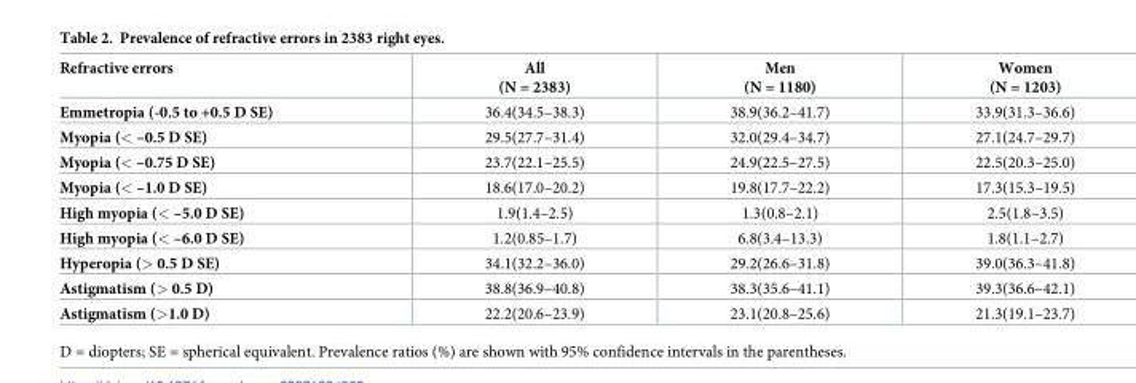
<table><thead><tr><td>Refractive errors</td><td>All (N = 2383)</td><td>Men (N = 1180)</td><td>Women (N = 1203)</td></tr></thead><tbody><tr><td>Emmetropia (-0.5 to +0.5 D SE)</td><td>36.4(34.5–38.3)</td><td>38.9(36.2–41.7)</td><td>33.9(31.3–36.6)</td></tr><tr><td>Myopia (&lt; –0.5 D SE)</td><td>29.5(27.7–31.4)</td><td>32.0(29.4–34.7)</td><td>27.1(24.7–29.7)</td></tr><tr><td>Myopia (&lt; –0.75 D SE)</td><td>23.7(22.1–25.5)</td><td>24.9(22.5–27.5)</td><td>22.5(20.3–25.0)</td></tr><tr><td>Myopia (&lt; –1.0 D SE)</td><td>18.6(17.0–20.2)</td><td>19.8(17.7–22.2)</td><td>17.3(15.3–19.5)</td></tr><tr><td>High myopia (&lt; –5.0 D SE)</td><td>1.9(1.4–2.5)</td><td>1.3(0.8–2.1)</td><td>2.5(1.8–3.5)</td></tr><tr><td>High myopia (&lt; –6.0 D SE)</td><td>1.2(0.85–1.7)</td><td>6.8(3.4–13.3)</td><td>1.8(1.1–2.7)</td></tr><tr><td>Hyperopia (&gt; 0.5 D SE)</td><td>34.1(32.2–36.0)</td><td>29.2(26.6–31.8)</td><td>39.0(36.3–41.8)</td></tr><tr><td>Astigmatism (&gt; 0.5 D)</td><td>38.8(36.9–40.8)</td><td>38.3(35.6–41.1)</td><td>39.3(36.6–42.1)</td></tr><tr><td>Astigmatism (&gt;1.0 D)</td><td>22.2(20.6–23.9)</td><td>23.1(20.8–25.6)</td><td>21.3(19.1–23.7)</td></tr></tbody></table>